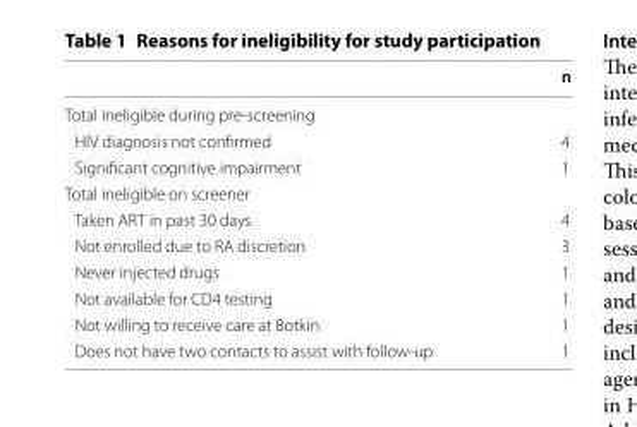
<table><thead><tr><td></td><td>n</td></tr></thead><tbody><tr><td colspan="2">Total ineligible during pre-screening</td></tr><tr><td>HIV diagnosis not confirmed</td><td>4</td></tr><tr><td>Significant cognitive impairment</td><td>1</td></tr><tr><td colspan="2">Total ineligible on screener</td></tr><tr><td>Taken ART in past 30 days</td><td>4</td></tr><tr><td>Not enrolled due to RA discretion</td><td>3</td></tr><tr><td>Never injected drugs</td><td>1</td></tr><tr><td>Not available for CD4 testing</td><td>1</td></tr><tr><td>Not willing to receive care at Botkin</td><td>1</td></tr><tr><td>Does not have two contacts to assist with follow-up</td><td>1</td></tr></tbody></table>